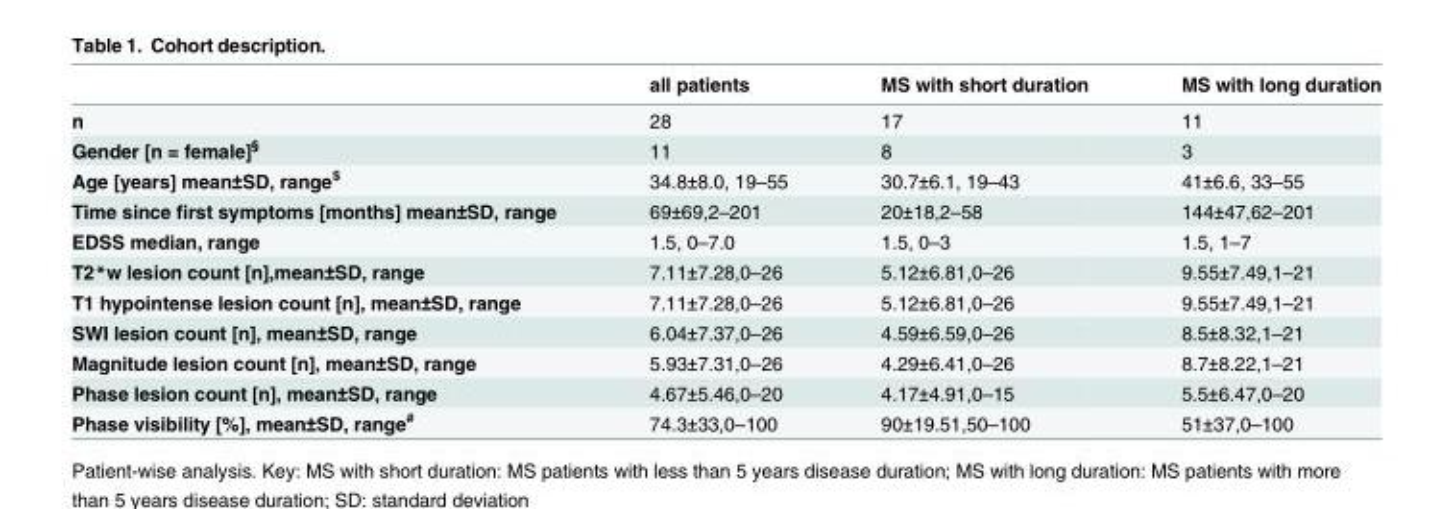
<table><thead><tr><td></td><td>all patients</td><td>MS with short duration</td><td>MS with long duration</td></tr></thead><tbody><tr><td>n</td><td>28</td><td>17</td><td>11</td></tr><tr><td>Gender [n = female]<sup>§</sup></td><td>11</td><td>8</td><td>3</td></tr><tr><td>Age [years] mean±SD, range<sup>$</sup></td><td>34.8±8.0, 19–55</td><td>30.7±6.1, 19–43</td><td>41±6.6, 33–55</td></tr><tr><td>Time since first symptoms [months] mean±SD, range</td><td>69±69,2–201</td><td>20±18,2–58</td><td>144±47,62–201</td></tr><tr><td>EDSS median, range</td><td>1.5, 0–7.0</td><td>1.5, 0–3</td><td>1.5, 1–7</td></tr><tr><td>T2*w lesion count [n],mean±SD, range</td><td>7.11±7.28,0–26</td><td>5.12±6.81,0–26</td><td>9.55±7.49,1–21</td></tr><tr><td>T1 hypointense lesion count [n], mean±SD, range</td><td>7.11±7.28,0–26</td><td>5.12±6.81,0–26</td><td>9.55±7.49,1–21</td></tr><tr><td>SWI lesion count [n], mean±SD, range</td><td>6.04±7.37,0–26</td><td>4.59±6.59,0–26</td><td>8.5±8.32,1–21</td></tr><tr><td>Magnitude lesion count [n], mean±SD, range</td><td>5.93±7.31,0–26</td><td>4.29±6.41,0–26</td><td>8.7±8.22,1–21</td></tr><tr><td>Phase lesion count [n], mean±SD, range</td><td>4.67±5.46,0–20</td><td>4.17±4.91,0–15</td><td>5.5±6.47,0–20</td></tr><tr><td>Phase visibility [%], mean±SD, range<sup>#</sup></td><td>74.3±33,0–100</td><td>90±19.51,50–100</td><td>51±37,0–100</td></tr></tbody></table>